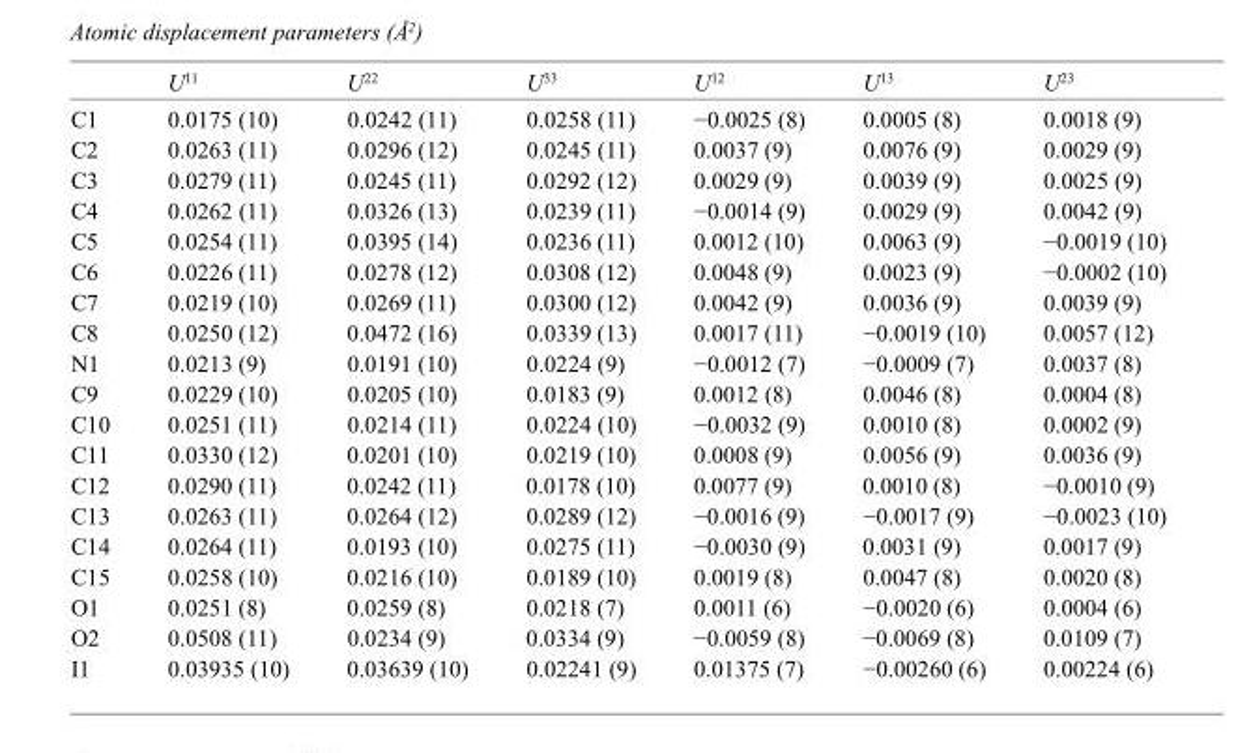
<table><thead><tr><td></td><td>U<sup>11</sup></td><td>U<sup>22</sup></td><td>U<sup>33</sup></td><td>U<sup>12</sup></td><td>U<sup>13</sup></td><td>U<sup>23</sup></td></tr></thead><tbody><tr><td>C1</td><td>0.0175 (10)</td><td>0.0242 (11)</td><td>0.0258 (11)</td><td>−0.0025 (8)</td><td>0.0005 (8)</td><td>0.0018 (9)</td></tr><tr><td>C2</td><td>0.0263 (11)</td><td>0.0296 (12)</td><td>0.0245 (11)</td><td>0.0037 (9)</td><td>0.0076 (9)</td><td>0.0029 (9)</td></tr><tr><td>C3</td><td>0.0279 (11)</td><td>0.0245 (11)</td><td>0.0292 (12)</td><td>0.0029 (9)</td><td>0.0039 (9)</td><td>0.0025 (9)</td></tr><tr><td>C4</td><td>0.0262 (11)</td><td>0.0326 (13)</td><td>0.0239 (11)</td><td>−0.0014 (9)</td><td>0.0029 (9)</td><td>0.0042 (9)</td></tr><tr><td>C5</td><td>0.0254 (11)</td><td>0.0395 (14)</td><td>0.0236 (11)</td><td>0.0012 (10)</td><td>0.0063 (9)</td><td>−0.0019 (10)</td></tr><tr><td>C6</td><td>0.0226 (11)</td><td>0.0278 (12)</td><td>0.0308 (12)</td><td>0.0048 (9)</td><td>0.0023 (9)</td><td>−0.0002 (10)</td></tr><tr><td>C7</td><td>0.0219 (10)</td><td>0.0269 (11)</td><td>0.0300 (12)</td><td>0.0042 (9)</td><td>0.0036 (9)</td><td>0.0039 (9)</td></tr><tr><td>C8</td><td>0.0250 (12)</td><td>0.0472 (16)</td><td>0.0339 (13)</td><td>0.0017 (11)</td><td>−0.0019 (10)</td><td>0.0057 (12)</td></tr><tr><td>N1</td><td>0.0213 (9)</td><td>0.0191 (10)</td><td>0.0224 (9)</td><td>−0.0012 (7)</td><td>−0.0009 (7)</td><td>0.0037 (8)</td></tr><tr><td>C9</td><td>0.0229 (10)</td><td>0.0205 (10)</td><td>0.0183 (9)</td><td>0.0012 (8)</td><td>0.0046 (8)</td><td>0.0004 (8)</td></tr><tr><td>C10</td><td>0.0251 (11)</td><td>0.0214 (11)</td><td>0.0224 (10)</td><td>−0.0032 (9)</td><td>0.0010 (8)</td><td>0.0002 (9)</td></tr><tr><td>C11</td><td>0.0330 (12)</td><td>0.0201 (10)</td><td>0.0219 (10)</td><td>0.0008 (9)</td><td>0.0056 (9)</td><td>0.0036 (9)</td></tr><tr><td>C12</td><td>0.0290 (11)</td><td>0.0242 (11)</td><td>0.0178 (10)</td><td>0.0077 (9)</td><td>0.0010 (8)</td><td>−0.0010 (9)</td></tr><tr><td>C13</td><td>0.0263 (11)</td><td>0.0264 (12)</td><td>0.0289 (12)</td><td>−0.0016 (9)</td><td>−0.0017 (9)</td><td>−0.0023 (10)</td></tr><tr><td>C14</td><td>0.0264 (11)</td><td>0.0193 (10)</td><td>0.0275 (11)</td><td>−0.0030 (9)</td><td>0.0031 (9)</td><td>0.0017 (9)</td></tr><tr><td>C15</td><td>0.0258 (10)</td><td>0.0216 (10)</td><td>0.0189 (10)</td><td>0.0019 (8)</td><td>0.0047 (8)</td><td>0.0020 (8)</td></tr><tr><td>O1</td><td>0.0251 (8)</td><td>0.0259 (8)</td><td>0.0218 (7)</td><td>0.0011 (6)</td><td>−0.0020 (6)</td><td>0.0004 (6)</td></tr><tr><td>O2</td><td>0.0508 (11)</td><td>0.0234 (9)</td><td>0.0334 (9)</td><td>−0.0059 (8)</td><td>−0.0069 (8)</td><td>0.0109 (7)</td></tr><tr><td>I1</td><td>0.03935 (10)</td><td>0.03639 (10)</td><td>0.02241 (9)</td><td>0.01375 (7)</td><td>−0.00260 (6)</td><td>0.00224 (6)</td></tr></tbody></table>